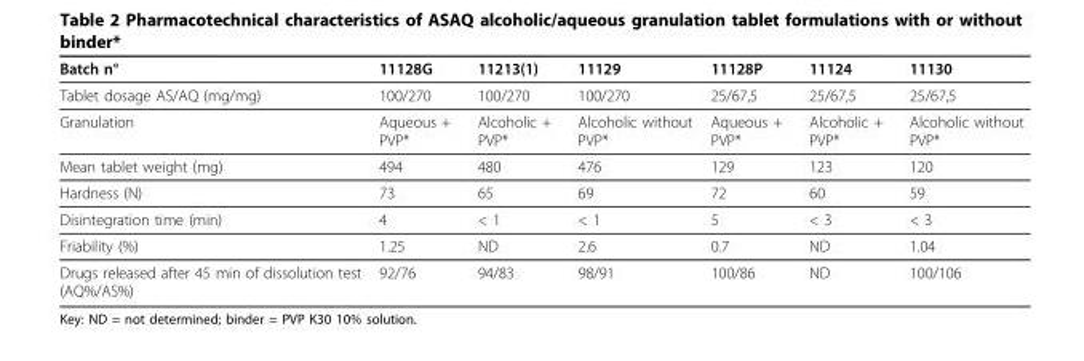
<table><thead><tr><td>Batch n°</td><td>11128G</td><td>11213(1)</td><td>11129</td><td>11128P</td><td>11124</td><td>11130</td></tr></thead><tbody><tr><td>Tablet dosage AS/AQ (mg/mg)</td><td>100/270</td><td>100/270</td><td>100/270</td><td>25/67,5</td><td>25/67,5</td><td>25/67,5</td></tr><tr><td>Granulation</td><td>Aqueous + PVP*</td><td>Alcoholic + PVP*</td><td>Alcoholic without PVP*</td><td>Aqueous + PVP*</td><td>Alcoholic + PVP*</td><td>Alcoholic without PVP*</td></tr><tr><td>Mean tablet weight (mg)</td><td>494</td><td>480</td><td>476</td><td>129</td><td>123</td><td>120</td></tr><tr><td>Hardness (N)</td><td>73</td><td>65</td><td>69</td><td>72</td><td>60</td><td>59</td></tr><tr><td>Disintegration time (min)</td><td>4</td><td>&lt; 1</td><td>&lt; 1</td><td>5</td><td>&lt; 3</td><td>&lt; 3</td></tr><tr><td>Friability (%)</td><td>1.25</td><td>ND</td><td>2.6</td><td>0.7</td><td>ND</td><td>1.04</td></tr><tr><td>Drugs released after 45 min of dissolution test (AQ%/AS%)</td><td>92/76</td><td>94/83</td><td>98/91</td><td>100/86</td><td>ND</td><td>100/106</td></tr></tbody></table>